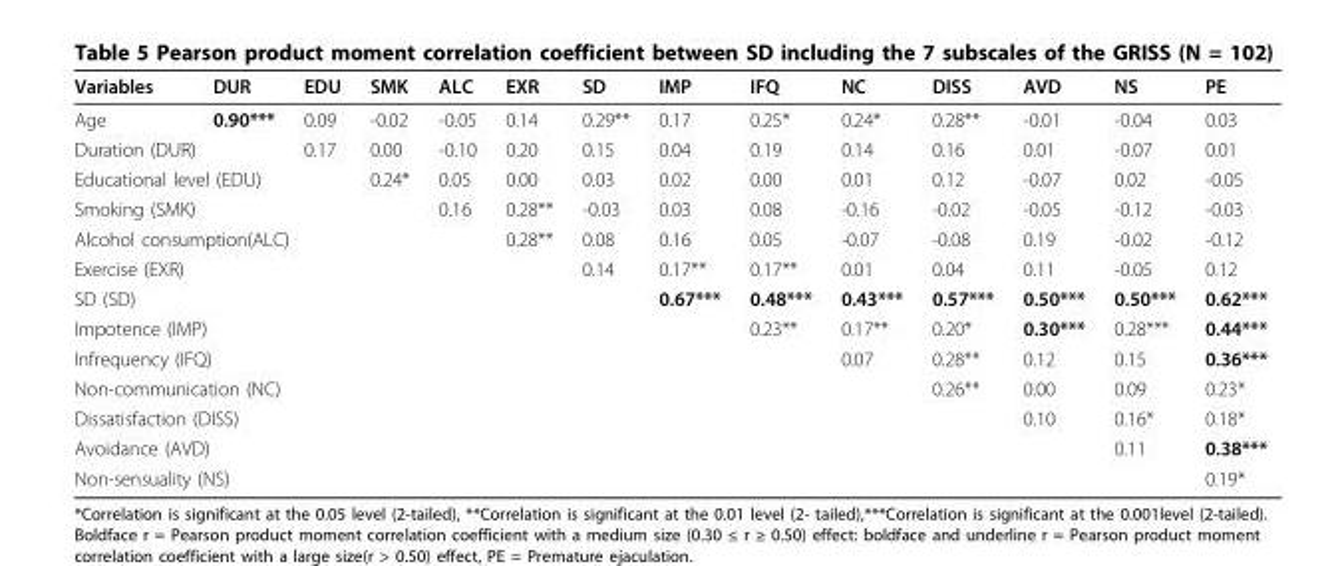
<table><thead><tr><td>Variables</td><td>DUR</td><td>EDU</td><td>SMK</td><td>ALC</td><td>EXR</td><td>SD</td><td>IMP</td><td>IFQ</td><td>NC</td><td>DISS</td><td>AVD</td><td>NS</td><td>PE</td></tr></thead><tbody><tr><td>Age</td><td>0.90***</td><td>0.09</td><td>-0.02</td><td>-0.05</td><td>0.14</td><td>0.29**</td><td>0.17</td><td>0.25*</td><td>0.24*</td><td>0.28**</td><td>-0.01</td><td>-0.04</td><td>0.03</td></tr><tr><td colspan="2">Duration (DUR)</td><td>0.17</td><td>0.00</td><td>-0.10</td><td>0.20</td><td>0.15</td><td>0.04</td><td>0.19</td><td>0.14</td><td>0.16</td><td>0.01</td><td>-0.07</td><td>0.01</td></tr><tr><td colspan="3">Educational level (EDU)</td><td>0.24*</td><td>0.05</td><td>0.00</td><td>0.03</td><td>0.02</td><td>0.00</td><td>0.01</td><td>0.12</td><td>-0.07</td><td>0.02</td><td>-0.05</td></tr><tr><td colspan="2">Smoking (SMK)</td><td></td><td></td><td>0.16</td><td>0.28**</td><td>-0.03</td><td>0.03</td><td>0.08</td><td>-0.16</td><td>-0.02</td><td>-0.05</td><td>-0.12</td><td>-0.03</td></tr><tr><td colspan="5">Alcohol consumption(ALC)</td><td>0.28**</td><td>0.08</td><td>0.16</td><td>0.05</td><td>-0.07</td><td>-0.08</td><td>0.19</td><td>-0.02</td><td>-0.12</td></tr><tr><td>Exercise (EXR)</td><td></td><td></td><td></td><td></td><td></td><td>0.14</td><td>0.17**</td><td>0.17**</td><td>0.01</td><td>0.04</td><td>0.11</td><td>-0.05</td><td>0.12</td></tr><tr><td colspan="3">SD (SD)</td><td></td><td></td><td></td><td></td><td>0.67***</td><td>0.48***</td><td>0.43***</td><td>0.57***</td><td>0.50***</td><td>0.50***</td><td>0.62***</td></tr><tr><td colspan="2">Impotence (IMP)</td><td></td><td></td><td></td><td></td><td></td><td></td><td>0.23**</td><td>0.17**</td><td>0.20*</td><td>0.30***</td><td>0.28***</td><td>0.44***</td></tr><tr><td colspan="2">Infrequency (IFQ)</td><td></td><td></td><td></td><td></td><td></td><td></td><td></td><td>0.07</td><td>0.28**</td><td>0.12</td><td>0.15</td><td>0.36***</td></tr><tr><td colspan="3">Non-communication (NC)</td><td></td><td></td><td></td><td></td><td></td><td></td><td></td><td>0.26**</td><td>0.00</td><td>0.09</td><td>0.23*</td></tr><tr><td colspan="2">Dissatisfaction (DISS)</td><td></td><td></td><td></td><td></td><td></td><td></td><td></td><td></td><td></td><td>0.10</td><td>0.16*</td><td>0.18*</td></tr><tr><td colspan="3">Avoidance (AVD)</td><td></td><td></td><td></td><td></td><td></td><td></td><td></td><td></td><td></td><td>0.11</td><td>0.38***</td></tr><tr><td colspan="2">Non-sensuality (NS)</td><td></td><td></td><td></td><td></td><td></td><td></td><td></td><td></td><td></td><td></td><td></td><td>0.19*</td></tr></tbody></table>